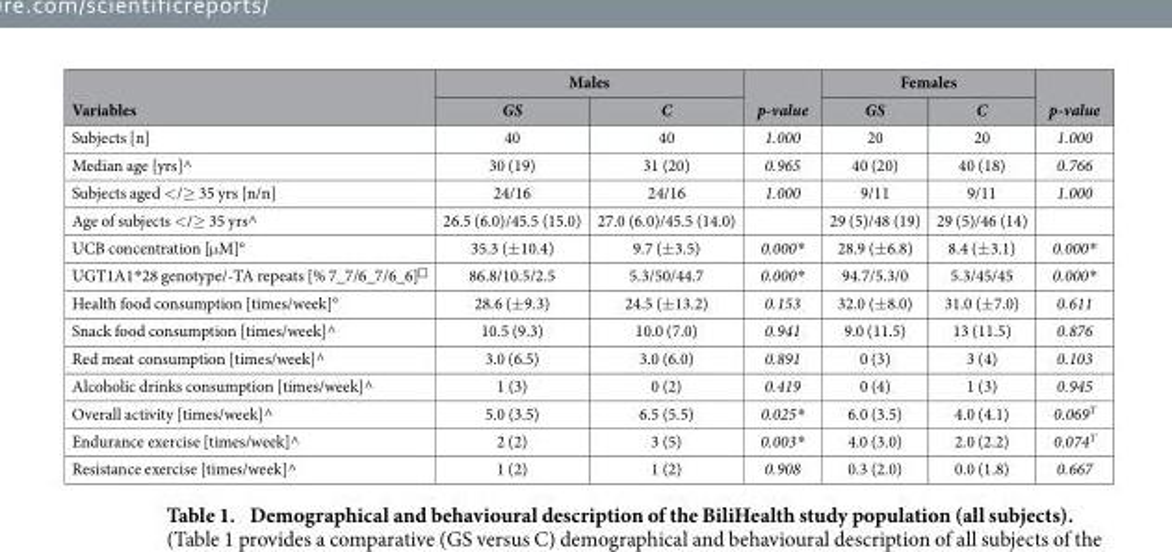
<table><thead><tr><td rowspan="2">Variables</td><td colspan="2">Males</td><td rowspan="2">p-value</td><td colspan="2">Females</td><td rowspan="2">p-value</td></tr><tr><td>GS</td><td>C</td><td>GS</td><td>C</td></tr></thead><tbody><tr><td>Subjects [n]</td><td>40</td><td>40</td><td>1.000</td><td>20</td><td>20</td><td>1.000</td></tr><tr><td>Median age [yrs]^</td><td>30 (19)</td><td>31 (20)</td><td>0.965</td><td>40 (20)</td><td>40 (18)</td><td>0.766</td></tr><tr><td>Subjects aged &lt;/≥ 35 yrs [n/n]</td><td>24/16</td><td>24/16</td><td>1.000</td><td>9/11</td><td>9/11</td><td>1.000</td></tr><tr><td>Age of subjects &lt;/≥ 35 yrs^</td><td>26.5 (6.0)/45.5 (15.0)</td><td>27.0 (6.0)/45.5 (14.0)</td><td></td><td>29 (5)/48 (19)</td><td>29 (5)/46 (14)</td><td></td></tr><tr><td>UCB concentration [μM]°</td><td>35.3 (±10.4)</td><td>9.7 (±3.5)</td><td>0.000*</td><td>28.9 (±6.8)</td><td>8.4 (±3.1)</td><td>0.000*</td></tr><tr><td>UGT1A1*28 genotype/-TA repeats [% 7_7/6_7/6_6]<sup>□</sup></td><td>86.8/10.5/2.5</td><td>5.3/50/44.7</td><td>0.000*</td><td>94.7/5.3/0</td><td>5.3/45/45</td><td>0.000*</td></tr><tr><td>Health food consumption [times/week]°</td><td>28.6 (±9.3)</td><td>24.5 (±13.2)</td><td>0.153</td><td>32.0 (±8.0)</td><td>31.0 (±7.0)</td><td>0.611</td></tr><tr><td>Snack food consumption [times/week]^</td><td>10.5 (9.3)</td><td>10.0 (7.0)</td><td>0.941</td><td>9.0 (11.5)</td><td>13 (11.5)</td><td>0.876</td></tr><tr><td>Red meat consumption [times/week]^</td><td>3.0 (6.5)</td><td>3.0 (6.0)</td><td>0.891</td><td>0 (3)</td><td>3 (4)</td><td>0.103</td></tr><tr><td>Alcoholic drinks consumption [times/week]^</td><td>1 (3)</td><td>0 (2)</td><td>0.419</td><td>0 (4)</td><td>1 (3)</td><td>0.945</td></tr><tr><td>Overall activity [times/week]^</td><td>5.0 (3.5)</td><td>6.5 (5.5)</td><td>0.025*</td><td>6.0 (3.5)</td><td>4.0 (4.1)</td><td>0.069<sup>T</sup></td></tr><tr><td>Endurance exercise [times/week]^</td><td>2 (2)</td><td>3 (5)</td><td>0.003*</td><td>4.0 (3.0)</td><td>2.0 (2.2)</td><td>0.074<sup>T</sup></td></tr><tr><td>Resistance exercise [times/week]^</td><td>1 (2)</td><td>1 (2)</td><td>0.908</td><td>0.3 (2.0)</td><td>0.0 (1.8)</td><td>0.667</td></tr></tbody></table>